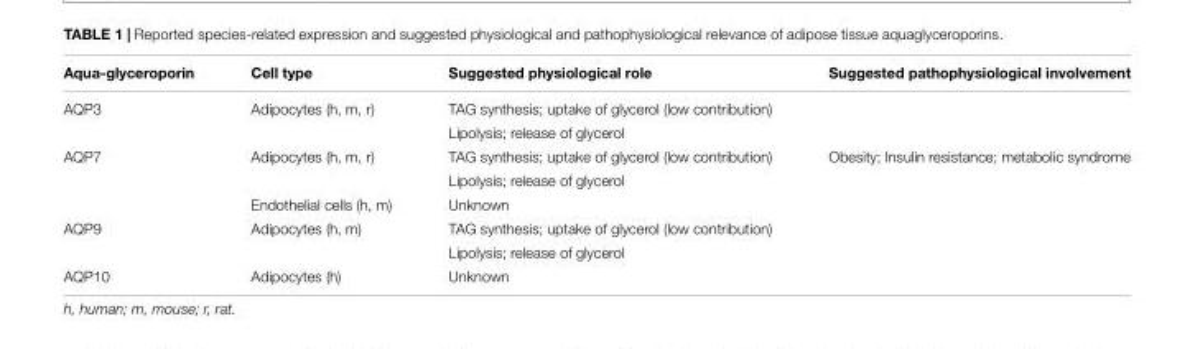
<table><thead><tr><td>Aqua-glyceroporin</td><td>Cell type</td><td>Suggested physiological role</td><td>Suggested pathophysiological involvement</td></tr></thead><tbody><tr><td rowspan="2">AQP3</td><td>Adipocytes (h, m, r)</td><td>TAG synthesis; uptake of glycerol (low contribution)</td><td></td></tr><tr><td></td><td>Lipolysis; release of glycerol</td><td></td></tr><tr><td rowspan="3">AQP7</td><td>Adipocytes (h, m, r)</td><td>TAG synthesis; uptake of glycerol (low contribution)</td><td>Obesity; Insulin resistance; metabolic syndrome</td></tr><tr><td></td><td>Lipolysis; release of glycerol</td><td></td></tr><tr><td>Endothelial cells (h, m)</td><td>Unknown</td><td></td></tr><tr><td rowspan="2">AQP9</td><td>Adipocytes (h, m)</td><td>TAG synthesis; uptake of glycerol (low contribution)</td><td></td></tr><tr><td></td><td>Lipolysis; release of glycerol</td><td></td></tr><tr><td>AQP10</td><td>Adipocytes (h)</td><td>Unknown</td><td></td></tr></tbody></table>